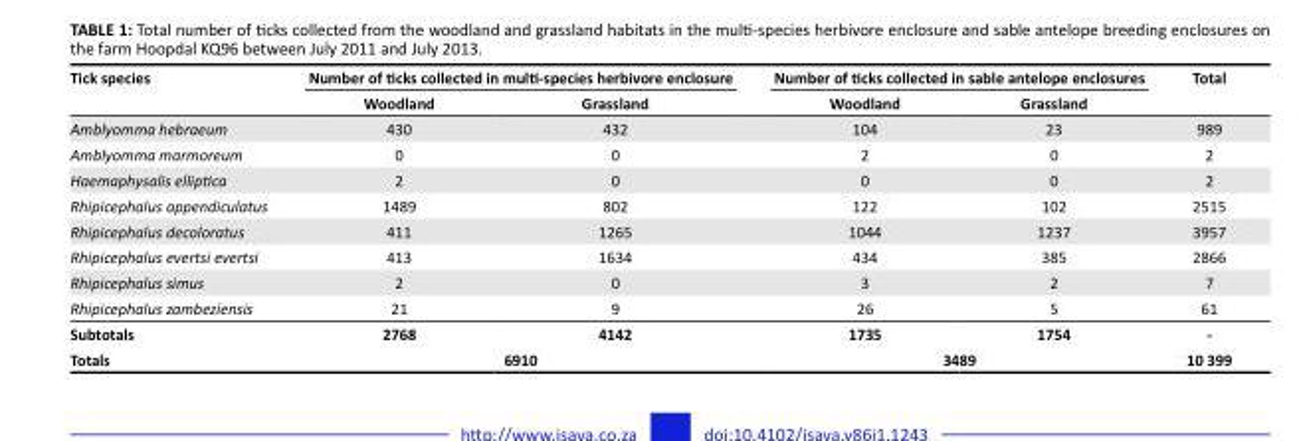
<table><thead><tr><td rowspan="2">Tick species</td><td colspan="2">Number of ticks collected in multi-species herbivore enclosure</td><td colspan="2">Number of ticks collected in sable antelope enclosures</td><td rowspan="2">Total</td></tr><tr><td>Woodland</td><td>Grassland</td><td>Woodland</td><td>Grassland</td></tr></thead><tbody><tr><td>Amblyomma hebraeum</td><td>430</td><td>432</td><td>104</td><td>23</td><td>989</td></tr><tr><td>Amblyomma marmoreum</td><td>0</td><td>0</td><td>2</td><td>0</td><td>2</td></tr><tr><td>Haemaphysalis elliptica</td><td>2</td><td>0</td><td>0</td><td>0</td><td>2</td></tr><tr><td>Rhipicephalus appendiculatus</td><td>1489</td><td>802</td><td>122</td><td>102</td><td>2515</td></tr><tr><td>Rhipicephalus decoloratus</td><td>411</td><td>1265</td><td>1044</td><td>1237</td><td>3957</td></tr><tr><td>Rhipicephalus evertsi evertsi</td><td>413</td><td>1634</td><td>434</td><td>385</td><td>2866</td></tr><tr><td>Rhipicephalus simus</td><td>2</td><td>0</td><td>3</td><td>2</td><td>7</td></tr><tr><td>Rhipicephalus zambeziensis</td><td>21</td><td>9</td><td>26</td><td>5</td><td>61</td></tr><tr><td>Subtotals</td><td>2768</td><td>4142</td><td>1735</td><td>1754</td><td>-</td></tr><tr><td>Totals</td><td colspan="2">6910</td><td colspan="2">3489</td><td>10 399</td></tr></tbody></table>